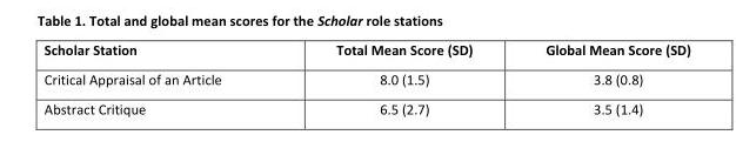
<table><thead><tr><td>Scholar Station</td><td>Total Mean Score (SD)</td><td>Global Mean Score (SD)</td></tr></thead><tbody><tr><td>Critical Appraisal of an Article</td><td>8.0 (1.5)</td><td>3.8 (0.8)</td></tr><tr><td>Abstract Critique</td><td>6.5 (2.7)</td><td>3.5 (1.4)</td></tr></tbody></table>